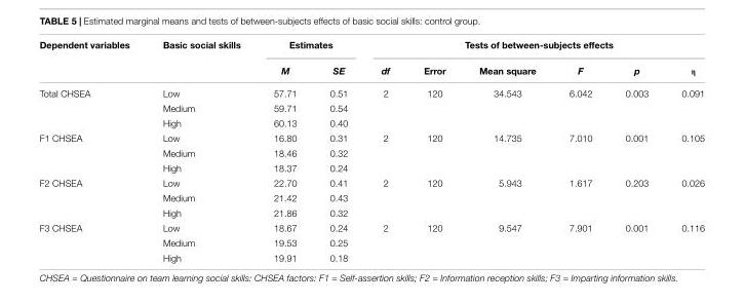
<table><thead><tr><td rowspan="2">Dependent variables</td><td rowspan="2">Basic social skills</td><td colspan="2">Estimates</td><td colspan="6">Tests of between-subjects effects</td></tr><tr><td>M</td><td>SE</td><td>df</td><td>Error</td><td>Mean square</td><td>F</td><td>p</td><td>η</td></tr></thead><tbody><tr><td rowspan="3">Total CHSEA</td><td>Low</td><td>57.71</td><td>0.51</td><td>2</td><td>120</td><td>34.543</td><td>6.042</td><td>0.003</td><td>0.091</td></tr><tr><td>Medium</td><td>59.71</td><td>0.54</td><td></td><td></td><td></td><td></td><td></td><td></td></tr><tr><td>High</td><td>60.13</td><td>0.40</td><td></td><td></td><td></td><td></td><td></td><td></td></tr><tr><td rowspan="3">F1 CHSEA</td><td>Low</td><td>16.80</td><td>0.31</td><td>2</td><td>120</td><td>14.735</td><td>7.010</td><td>0.001</td><td>0.105</td></tr><tr><td>Medium</td><td>18.46</td><td>0.32</td><td></td><td></td><td></td><td></td><td></td><td></td></tr><tr><td>High</td><td>18.37</td><td>0.24</td><td></td><td></td><td></td><td></td><td></td><td></td></tr><tr><td rowspan="3">F2 CHSEA</td><td>Low</td><td>22.70</td><td>0.41</td><td>2</td><td>120</td><td>5.943</td><td>1.617</td><td>0.203</td><td>0.026</td></tr><tr><td>Medium</td><td>21.42</td><td>0.43</td><td></td><td></td><td></td><td></td><td></td><td></td></tr><tr><td>High</td><td>21.86</td><td>0.32</td><td></td><td></td><td></td><td></td><td></td><td></td></tr><tr><td rowspan="3">F3 CHSEA</td><td>Low</td><td>18.67</td><td>0.24</td><td>2</td><td>120</td><td>9.547</td><td>7.901</td><td>0.001</td><td>0.116</td></tr><tr><td>Medium</td><td>19.53</td><td>0.25</td><td></td><td></td><td></td><td></td><td></td><td></td></tr><tr><td>High</td><td>19.91</td><td>0.18</td><td></td><td></td><td></td><td></td><td></td><td></td></tr></tbody></table>